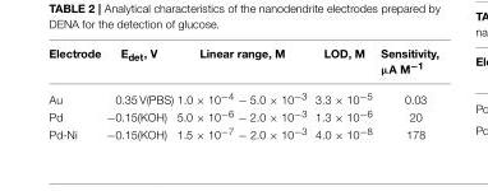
<table><thead><tr><td>Electrode</td><td>E<sub>det</sub>, V</td><td>Linear range, M</td><td>LOD, M</td><td>Sensitivity, µA M<sup>−1</sup></td></tr></thead><tbody><tr><td>Au</td><td>0.35 V(PBS)</td><td>1.0 × 10<sup>−4</sup> − 5.0 × 10<sup>−3</sup></td><td>3.3 × 10<sup>−5</sup></td><td>0.03</td></tr><tr><td>Pd</td><td>−0.15(KOH)</td><td>5.0 × 10<sup>−6</sup> − 2.0 × 10<sup>−3</sup></td><td>1.3 × 10<sup>−6</sup></td><td>20</td></tr><tr><td>Pd-Ni</td><td>−0.15(KOH)</td><td>1.5 × 10<sup>−7</sup> − 2.0 × 10<sup>−3</sup></td><td>4.0 × 10<sup>−8</sup></td><td>178</td></tr></tbody></table>